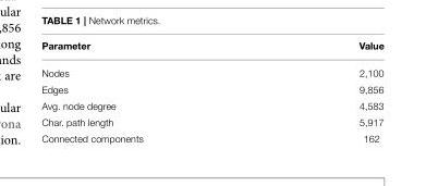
<table><thead><tr><td>Parameter</td><td>Value</td></tr></thead><tbody><tr><td>Nodes</td><td>2,100</td></tr><tr><td>Edges</td><td>9,856</td></tr><tr><td>Avg. node degree</td><td>4,583</td></tr><tr><td>Char. path length</td><td>5,917</td></tr><tr><td>Connected components</td><td>162</td></tr></tbody></table>